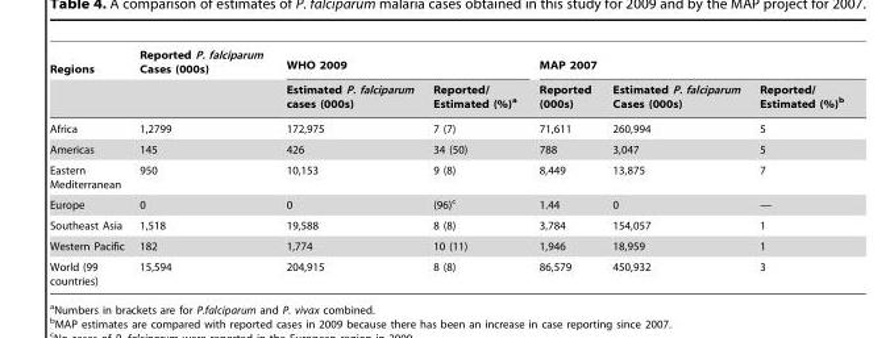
<table><thead><tr><td rowspan="2">Regions</td><td rowspan="2">Reported P. falciparum Cases (000s)</td><td colspan="2">WHO 2009</td><td colspan="3">MAP 2007</td></tr><tr><td>Estimated P. falciparum cases (000s)</td><td>Reported/ Estimated (%)<sup>a</sup></td><td>Reported (000s)</td><td>Estimated P. falciparum Cases (000s)</td><td>Reported/ Estimated (%)<sup>b</sup></td></tr></thead><tbody><tr><td>Africa</td><td>1,2799</td><td>172,975</td><td>7 (7)</td><td>71,611</td><td>260,994</td><td>5</td></tr><tr><td>Americas</td><td>145</td><td>426</td><td>34 (50)</td><td>788</td><td>3,047</td><td>5</td></tr><tr><td>Eastern Mediterranean</td><td>950</td><td>10,153</td><td>9 (8)</td><td>8,449</td><td>13,875</td><td>7</td></tr><tr><td>Europe</td><td>0</td><td>0</td><td>(96)<sup>c</sup></td><td>1.44</td><td>0</td><td>—</td></tr><tr><td>Southeast Asia</td><td>1,518</td><td>19,588</td><td>8 (8)</td><td>3,784</td><td>154,057</td><td>1</td></tr><tr><td>Western Pacific</td><td>182</td><td>1,774</td><td>10 (11)</td><td>1,946</td><td>18,959</td><td>1</td></tr><tr><td>World (99 countries)</td><td>15,594</td><td>204,915</td><td>8 (8)</td><td>86,579</td><td>450,932</td><td>3</td></tr></tbody></table>